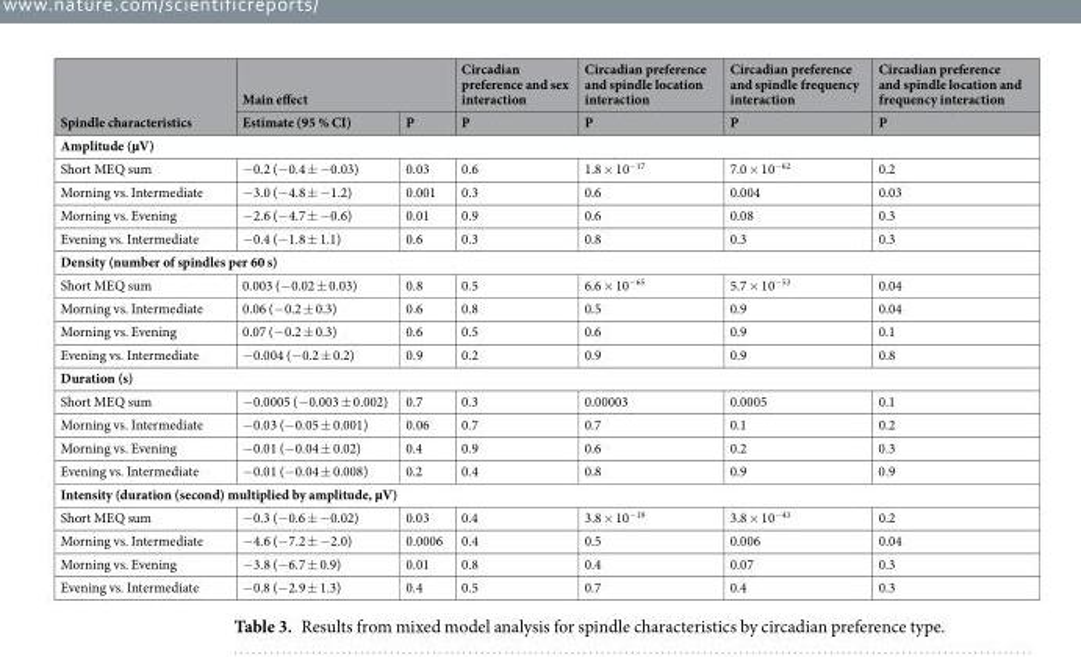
<table><thead><tr><td rowspan="2">Spindle characteristics</td><td colspan="2">Main effect</td><td rowspan="2">Circadian preference and sex interaction P</td><td rowspan="2">Circadian preference and spindle location interaction P</td><td rowspan="2">Circadian preference and spindle frequency interaction P</td><td rowspan="2">Circadian preference and spindle location and frequency interaction P</td></tr><tr><td>Estimate (95 % CI)</td><td>P</td></tr></thead><tbody><tr><td colspan="7">Amplitude (µV)</td></tr><tr><td>Short MEQ sum</td><td>−0.2 (−0.4 ± −0.03)</td><td>0.03</td><td>0.6</td><td>1.8 × 10<sup>−17</sup></td><td>7.0 × 10<sup>−62</sup></td><td>0.2</td></tr><tr><td>Morning vs. Intermediate</td><td>−3.0 (−4.8 ± −1.2)</td><td>0.001</td><td>0.3</td><td>0.6</td><td>0.004</td><td>0.03</td></tr><tr><td>Morning vs. Evening</td><td>−2.6 (−4.7 ± −0.6)</td><td>0.01</td><td>0.9</td><td>0.6</td><td>0.08</td><td>0.3</td></tr><tr><td>Evening vs. Intermediate</td><td>−0.4 (−1.8 ± 1.1)</td><td>0.6</td><td>0.3</td><td>0.8</td><td>0.3</td><td>0.3</td></tr><tr><td colspan="7">Density (number of spindles per 60 s)</td></tr><tr><td>Short MEQ sum</td><td>0.003 (−0.02 ± 0.03)</td><td>0.8</td><td>0.5</td><td>6.6 × 10<sup>−65</sup></td><td>5.7 × 10<sup>−53</sup></td><td>0.04</td></tr><tr><td>Morning vs. Intermediate</td><td>0.06 (−0.2 ± 0.3)</td><td>0.6</td><td>0.8</td><td>0.5</td><td>0.9</td><td>0.04</td></tr><tr><td>Morning vs. Evening</td><td>0.07 (−0.2 ± 0.3)</td><td>0.6</td><td>0.5</td><td>0.6</td><td>0.9</td><td>0.1</td></tr><tr><td>Evening vs. Intermediate</td><td>−0.004 (−0.2 ± 0.2)</td><td>0.9</td><td>0.2</td><td>0.9</td><td>0.9</td><td>0.8</td></tr><tr><td colspan="7">Duration (s)</td></tr><tr><td>Short MEQ sum</td><td>−0.0005 (−0.003 ± 0.002)</td><td>0.7</td><td>0.3</td><td>0.00003</td><td>0.0005</td><td>0.1</td></tr><tr><td>Morning vs. Intermediate</td><td>−0.03 (−0.05 ± 0.001)</td><td>0.06</td><td>0.7</td><td>0.7</td><td>0.1</td><td>0.2</td></tr><tr><td>Morning vs. Evening</td><td>−0.01 (−0.04 ± 0.02)</td><td>0.4</td><td>0.9</td><td>0.6</td><td>0.2</td><td>0.3</td></tr><tr><td>Evening vs. Intermediate</td><td>−0.01 (−0.04 ± 0.008)</td><td>0.2</td><td>0.4</td><td>0.8</td><td>0.9</td><td>0.9</td></tr><tr><td colspan="7">Intensity (duration (second) multiplied by amplitude, µV)</td></tr><tr><td>Short MEQ sum</td><td>−0.3 (−0.6 ± −0.02)</td><td>0.03</td><td>0.4</td><td>3.8 × 10<sup>−19</sup></td><td>3.8 × 10<sup>−43</sup></td><td>0.2</td></tr><tr><td>Morning vs. Intermediate</td><td>−4.6 (−7.2 ± −2.0)</td><td>0.0006</td><td>0.4</td><td>0.5</td><td>0.006</td><td>0.04</td></tr><tr><td>Morning vs. Evening</td><td>−3.8 (−6.7 ± 0.9)</td><td>0.01</td><td>0.8</td><td>0.4</td><td>0.07</td><td>0.3</td></tr><tr><td>Evening vs. Intermediate</td><td>−0.8 (−2.9 ± 1.3)</td><td>0.4</td><td>0.5</td><td>0.7</td><td>0.4</td><td>0.3</td></tr></tbody></table>